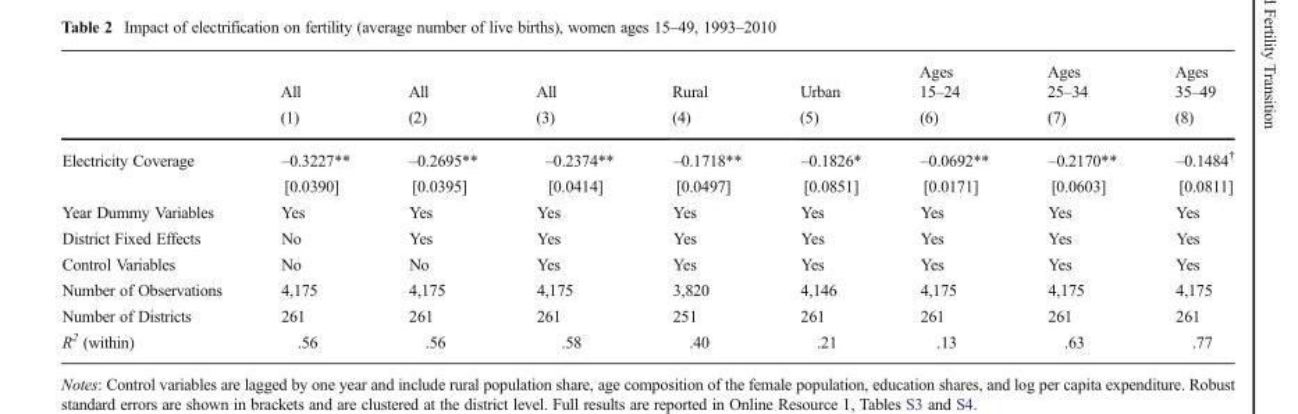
<table><thead><tr><td rowspan="2"></td><td rowspan="2">All (1)</td><td rowspan="2">All (2)</td><td rowspan="2">All (3)</td><td rowspan="2">Rural (4)</td><td rowspan="2">Urban (5)</td><td rowspan="2">Ages 15–24 (6)</td><td rowspan="2">Ages 25–34 (7)</td><td rowspan="2">Ages 35–49 (8)</td></tr><tr></tr></thead><tbody><tr><td rowspan="2">Electricity Coverage</td><td>–0.3227**</td><td>–0.2695**</td><td>–0.2374**</td><td>–0.1718**</td><td>–0.1826*</td><td>–0.0692**</td><td>–0.2170**</td><td>–0.1484<sup>†</sup></td></tr><tr><td>[0.0390]</td><td>[0.0395]</td><td>[0.0414]</td><td>[0.0497]</td><td>[0.0851]</td><td>[0.0171]</td><td>[0.0603]</td><td>[0.0811]</td></tr><tr><td>Year Dummy Variables</td><td>Yes</td><td>Yes</td><td>Yes</td><td>Yes</td><td>Yes</td><td>Yes</td><td>Yes</td><td>Yes</td></tr><tr><td>District Fixed Effects</td><td>No</td><td>Yes</td><td>Yes</td><td>Yes</td><td>Yes</td><td>Yes</td><td>Yes</td><td>Yes</td></tr><tr><td>Control Variables</td><td>No</td><td>No</td><td>Yes</td><td>Yes</td><td>Yes</td><td>Yes</td><td>Yes</td><td>Yes</td></tr><tr><td>Number of Observations</td><td>4,175</td><td>4,175</td><td>4,175</td><td>3,820</td><td>4,146</td><td>4,175</td><td>4,175</td><td>4,175</td></tr><tr><td>Number of Districts</td><td>261</td><td>261</td><td>261</td><td>251</td><td>261</td><td>261</td><td>261</td><td>261</td></tr><tr><td>R<sup>2</sup> (within)</td><td>.56</td><td>.56</td><td>.58</td><td>.40</td><td>.21</td><td>.13</td><td>.63</td><td>.77</td></tr></tbody></table>